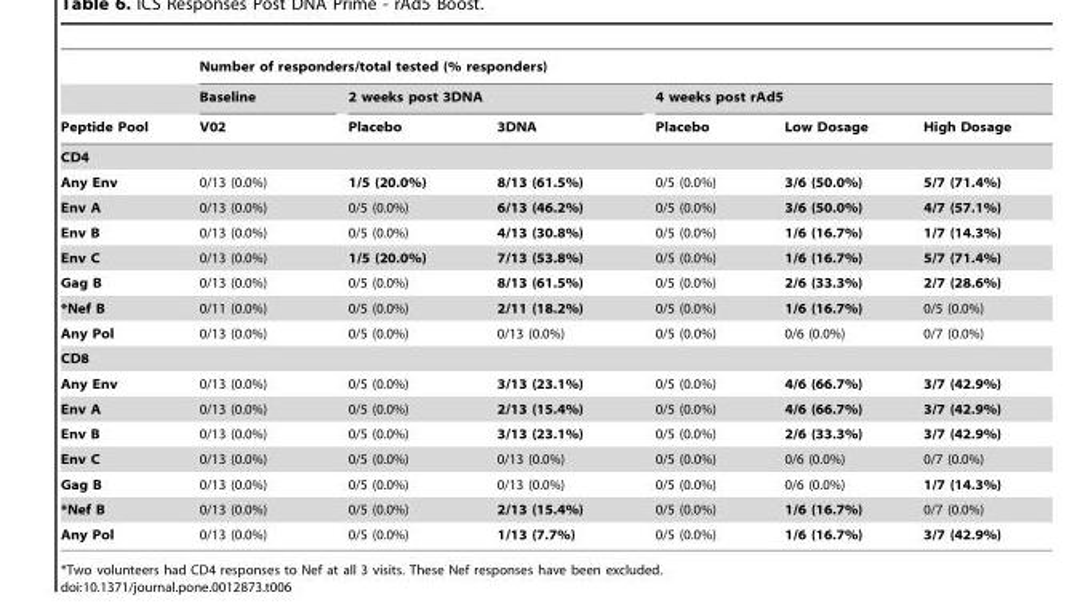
<table><thead><tr><td rowspan="3">Peptide Pool</td><td colspan="6">Number of responders/total tested (% responders)</td></tr><tr><td rowspan="2">Baseline V02</td><td colspan="2">2 weeks post 3DNA</td><td colspan="3">4 weeks post rAd5</td></tr><tr><td>Placebo</td><td>3DNA</td><td>Placebo</td><td>Low Dosage</td><td>High Dosage</td></tr></thead><tbody><tr><td colspan="7">CD4</td></tr><tr><td>Any Env</td><td>0/13 (0.0%)</td><td>1/5 (20.0%)</td><td>8/13 (61.5%)</td><td>0/5 (0.0%)</td><td>3/6 (50.0%)</td><td>5/7 (71.4%)</td></tr><tr><td>Env A</td><td>0/13 (0.0%)</td><td>0/5 (0.0%)</td><td>6/13 (46.2%)</td><td>0/5 (0.0%)</td><td>3/6 (50.0%)</td><td>4/7 (57.1%)</td></tr><tr><td>Env B</td><td>0/13 (0.0%)</td><td>0/5 (0.0%)</td><td>4/13 (30.8%)</td><td>0/5 (0.0%)</td><td>1/6 (16.7%)</td><td>1/7 (14.3%)</td></tr><tr><td>Env C</td><td>0/13 (0.0%)</td><td>1/5 (20.0%)</td><td>7/13 (53.8%)</td><td>0/5 (0.0%)</td><td>1/6 (16.7%)</td><td>5/7 (71.4%)</td></tr><tr><td>Gag B</td><td>0/13 (0.0%)</td><td>0/5 (0.0%)</td><td>8/13 (61.5%)</td><td>0/5 (0.0%)</td><td>2/6 (33.3%)</td><td>2/7 (28.6%)</td></tr><tr><td>*Nef B</td><td>0/11 (0.0%)</td><td>0/5 (0.0%)</td><td>2/11 (18.2%)</td><td>0/5 (0.0%)</td><td>1/6 (16.7%)</td><td>0/5 (0.0%)</td></tr><tr><td>Any Pol</td><td>0/13 (0.0%)</td><td>0/5 (0.0%)</td><td>0/13 (0.0%)</td><td>0/5 (0.0%)</td><td>0/6 (0.0%)</td><td>0/7 (0.0%)</td></tr><tr><td colspan="7">CD8</td></tr><tr><td>Any Env</td><td>0/13 (0.0%)</td><td>0/5 (0.0%)</td><td>3/13 (23.1%)</td><td>0/5 (0.0%)</td><td>4/6 (66.7%)</td><td>3/7 (42.9%)</td></tr><tr><td>Env A</td><td>0/13 (0.0%)</td><td>0/5 (0.0%)</td><td>2/13 (15.4%)</td><td>0/5 (0.0%)</td><td>4/6 (66.7%)</td><td>3/7 (42.9%)</td></tr><tr><td>Env B</td><td>0/13 (0.0%)</td><td>0/5 (0.0%)</td><td>3/13 (23.1%)</td><td>0/5 (0.0%)</td><td>2/6 (33.3%)</td><td>3/7 (42.9%)</td></tr><tr><td>Env C</td><td>0/13 (0.0%)</td><td>0/5 (0.0%)</td><td>0/13 (0.0%)</td><td>0/5 (0.0%)</td><td>0/6 (0.0%)</td><td>0/7 (0.0%)</td></tr><tr><td>Gag B</td><td>0/13 (0.0%)</td><td>0/5 (0.0%)</td><td>0/13 (0.0%)</td><td>0/5 (0.0%)</td><td>0/6 (0.0%)</td><td>1/7 (14.3%)</td></tr><tr><td>*Nef B</td><td>0/13 (0.0%)</td><td>0/5 (0.0%)</td><td>2/13 (15.4%)</td><td>0/5 (0.0%)</td><td>1/6 (16.7%)</td><td>0/7 (0.0%)</td></tr><tr><td>Any Pol</td><td>0/13 (0.0%)</td><td>0/5 (0.0%)</td><td>1/13 (7.7%)</td><td>0/5 (0.0%)</td><td>1/6 (16.7%)</td><td>3/7 (42.9%)</td></tr></tbody></table>